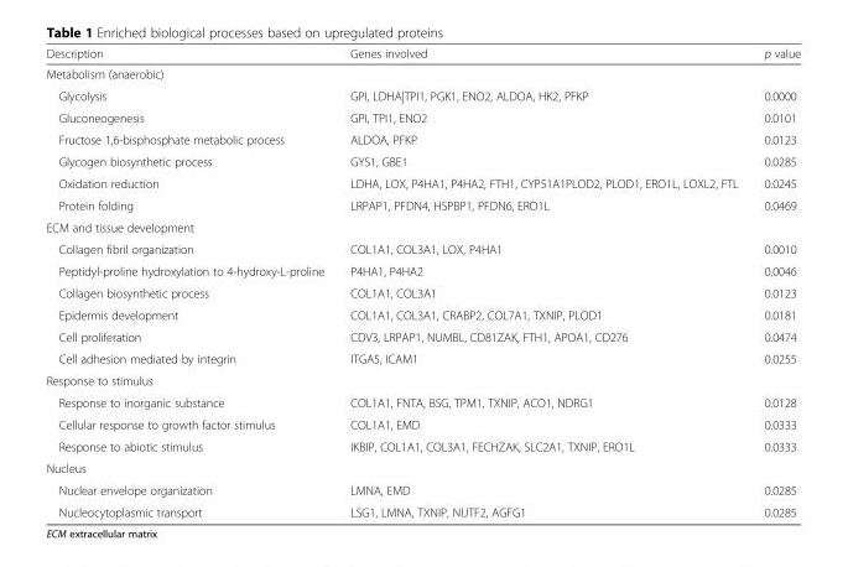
<table><thead><tr><td>Description</td><td>Genes involved</td><td>p value</td></tr></thead><tbody><tr><td colspan="3">Metabolism (anaerobic)</td></tr><tr><td>Glycolysis</td><td>GPI, LDHA|TPI1, PGK1, ENO2, ALDOA, HK2, PFKP</td><td>0.0000</td></tr><tr><td>Gluconeogenesis</td><td>GPI, TPI1, ENO2</td><td>0.0101</td></tr><tr><td>Fructose 1,6-bisphosphate metabolic process</td><td>ALDOA, PFKP</td><td>0.0123</td></tr><tr><td>Glycogen biosynthetic process</td><td>GYS1, GBE1</td><td>0.0285</td></tr><tr><td>Oxidation reduction</td><td>LDHA, LOX, P4HA1, P4HA2, FTH1, CYP51A1PLOD2, PLOD1, ERO1L, LOXL2, FTL</td><td>0.0245</td></tr><tr><td>Protein folding</td><td>LRPAP1, PFDN4, HSPBP1, PFDN6, ERO1L</td><td>0.0469</td></tr><tr><td colspan="3">ECM and tissue development</td></tr><tr><td>Collagen fibril organization</td><td>COL1A1, COL3A1, LOX, P4HA1</td><td>0.0010</td></tr><tr><td>Peptidyl-proline hydroxylation to 4-hydroxy-L-proline</td><td>P4HA1, P4HA2</td><td>0.0046</td></tr><tr><td>Collagen biosynthetic process</td><td>COL1A1, COL3A1</td><td>0.0123</td></tr><tr><td>Epidermis development</td><td>COL1A1, COL3A1, CRABP2, COL7A1, TXNIP, PLOD1</td><td>0.0181</td></tr><tr><td>Cell proliferation</td><td>CDV3, LRPAP1, NUMBL, CD81ZAK, FTH1, APOA1, CD276</td><td>0.0474</td></tr><tr><td>Cell adhesion mediated by integrin</td><td>ITGA5, ICAM1</td><td>0.0255</td></tr><tr><td colspan="3">Response to stimulus</td></tr><tr><td>Response to inorganic substance</td><td>COL1A1, FNTA, BSG, TPM1, TXNIP, ACO1, NDRG1</td><td>0.0128</td></tr><tr><td>Cellular response to growth factor stimulus</td><td>COL1A1, EMD</td><td>0.0333</td></tr><tr><td>Response to abiotic stimulus</td><td>IKBIP, COL1A1, COL3A1, FECHZAK, SLC2A1, TXNIP, ERO1L</td><td>0.0333</td></tr><tr><td colspan="3">Nucleus</td></tr><tr><td>Nuclear envelope organization</td><td>LMNA, EMD</td><td>0.0285</td></tr><tr><td>Nucleocytoplasmic transport</td><td>LSG1, LMNA, TXNIP, NUTF2, AGFG1</td><td>0.0285</td></tr></tbody></table>